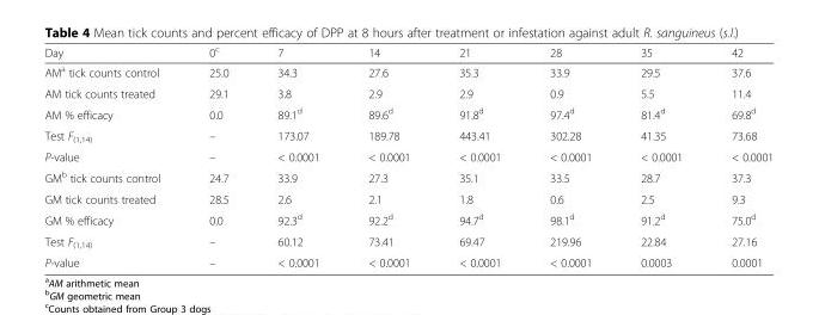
<table><thead><tr><td>Day</td><td>0<sup>c</sup></td><td>7</td><td>14</td><td>21</td><td>28</td><td>35</td><td>42</td></tr></thead><tbody><tr><td>AM<sup>a</sup> tick counts control</td><td>25.0</td><td>34.3</td><td>27.6</td><td>35.3</td><td>33.9</td><td>29.5</td><td>37.6</td></tr><tr><td>AM tick counts treated</td><td>29.1</td><td>3.8</td><td>2.9</td><td>2.9</td><td>0.9</td><td>5.5</td><td>11.4</td></tr><tr><td>AM % efficacy</td><td>0.0</td><td>89.1<sup>d</sup></td><td>89.6<sup>d</sup></td><td>91.8<sup>d</sup></td><td>97.4<sup>d</sup></td><td>81.4<sup>d</sup></td><td>69.8<sup>d</sup></td></tr><tr><td>Test F<sub>(1,14)</sub></td><td>–</td><td>173.07</td><td>189.78</td><td>443.41</td><td>302.28</td><td>41.35</td><td>73.68</td></tr><tr><td>P-value</td><td>–</td><td>&lt; 0.0001</td><td>&lt; 0.0001</td><td>&lt; 0.0001</td><td>&lt; 0.0001</td><td>&lt; 0.0001</td><td>&lt; 0.0001</td></tr><tr><td>GM<sup>b</sup> tick counts control</td><td>24.7</td><td>33.9</td><td>27.3</td><td>35.1</td><td>33.5</td><td>28.7</td><td>37.3</td></tr><tr><td>GM tick counts treated</td><td>28.5</td><td>2.6</td><td>2.1</td><td>1.8</td><td>0.6</td><td>2.5</td><td>9.3</td></tr><tr><td>GM % efficacy</td><td>0.0</td><td>92.3<sup>d</sup></td><td>92.2<sup>d</sup></td><td>94.7<sup>d</sup></td><td>98.1<sup>d</sup></td><td>91.2<sup>d</sup></td><td>75.0<sup>d</sup></td></tr><tr><td>Test F<sub>(1,14)</sub></td><td>–</td><td>60.12</td><td>73.41</td><td>69.47</td><td>219.96</td><td>22.84</td><td>27.16</td></tr><tr><td>P-value</td><td>–</td><td>&lt; 0.0001</td><td>&lt; 0.0001</td><td>&lt; 0.0001</td><td>&lt; 0.0001</td><td>0.0003</td><td>0.0001</td></tr></tbody></table>